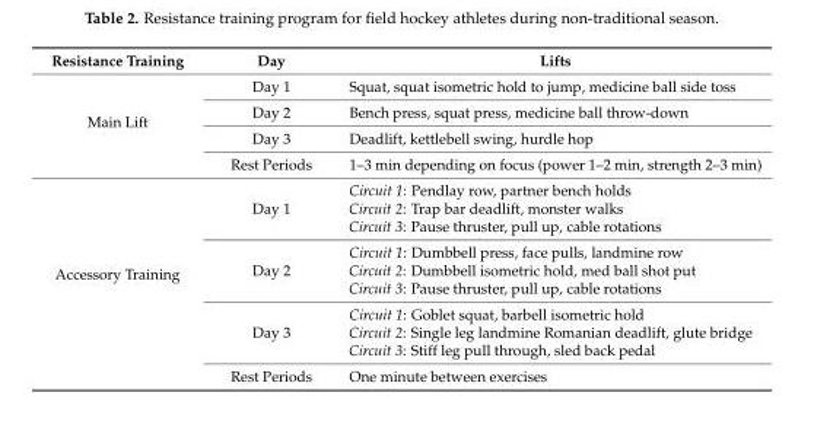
<table><thead><tr><td>Resistance Training</td><td>Day</td><td>Lifts</td></tr></thead><tbody><tr><td rowspan="4">Main Lift</td><td>Day 1</td><td>Squat, squat isometric hold to jump, medicine ball side toss</td></tr><tr><td>Day 2</td><td>Bench press, squat press, medicine ball throw-down</td></tr><tr><td>Day 3</td><td>Deadlift, kettlebell swing, hurdle hop</td></tr><tr><td>Rest Periods</td><td>1–3 min depending on focus (power 1–2 min, strength 2–3 min)</td></tr><tr><td rowspan="4">Accessory Training</td><td>Day 1</td><td>Circuit 1: Pendlay row, partner bench holds Circuit 2: Trap bar deadlift, monster walks Circuit 3: Pause thruster, pull up, cable rotations</td></tr><tr><td>Day 2</td><td>Circuit 1: Dumbbell press, face pulls, landmine row Circuit 2: Dumbbell isometric hold, med ball shot put Circuit 3: Pause thruster, pull up, cable rotations</td></tr><tr><td>Day 3</td><td>Circuit 1: Goblet squat, barbell isometric hold Circuit 2: Single leg landmine Romanian deadlift, glute bridge Circuit 3: Stiff leg pull through, sled back pedal</td></tr><tr><td>Rest Periods</td><td>One minute between exercises</td></tr></tbody></table>